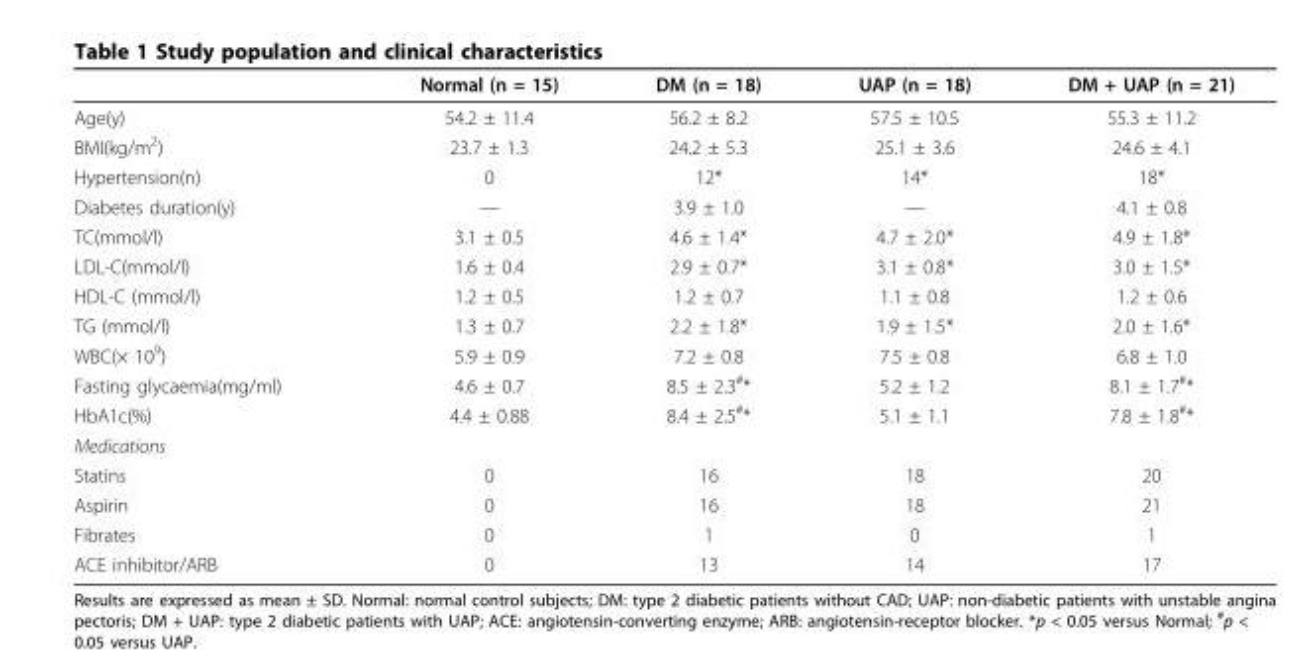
<table><thead><tr><td></td><td>Normal (n = 15)</td><td>DM (n = 18)</td><td>UAP (n = 18)</td><td>DM + UAP (n = 21)</td></tr></thead><tbody><tr><td>Age(y)</td><td>54.2 ± 11.4</td><td>56.2 ± 8.2</td><td>57.5 ± 10.5</td><td>55.3 ± 11.2</td></tr><tr><td>BMI(kg/m<sup>2</sup>)</td><td>23.7 ± 1.3</td><td>24.2 ± 5.3</td><td>25.1 ± 3.6</td><td>24.6 ± 4.1</td></tr><tr><td>Hypertension(n)</td><td>0</td><td>12*</td><td>14*</td><td>18*</td></tr><tr><td>Diabetes duration(y)</td><td>—</td><td>3.9 ± 1.0</td><td>—</td><td>4.1 ± 0.8</td></tr><tr><td>TC(mmol/l)</td><td>3.1 ± 0.5</td><td>4.6 ± 1.4*</td><td>4.7 ± 2.0*</td><td>4.9 ± 1.8*</td></tr><tr><td>LDL-C(mmol/l)</td><td>1.6 ± 0.4</td><td>2.9 ± 0.7*</td><td>3.1 ± 0.8*</td><td>3.0 ± 1.5*</td></tr><tr><td>HDL-C (mmol/l)</td><td>1.2 ± 0.5</td><td>1.2 ± 0.7</td><td>1.1 ± 0.8</td><td>1.2 ± 0.6</td></tr><tr><td>TG (mmol/l)</td><td>1.3 ± 0.7</td><td>2.2 ± 1.8*</td><td>1.9 ± 1.5*</td><td>2.0 ± 1.6*</td></tr><tr><td>WBC(× 10<sup>9</sup>)</td><td>5.9 ± 0.9</td><td>7.2 ± 0.8</td><td>7.5 ± 0.8</td><td>6.8 ± 1.0</td></tr><tr><td>Fasting glycaemia(mg/ml)</td><td>4.6 ± 0.7</td><td>8.5 ± 2.3<sup>#</sup>*</td><td>5.2 ± 1.2</td><td>8.1 ± 1.7<sup>#</sup>*</td></tr><tr><td>HbA1c(%)</td><td>4.4 ± 0.88</td><td>8.4 ± 2.5<sup>#</sup>*</td><td>5.1 ± 1.1</td><td>7.8 ± 1.8<sup>#</sup>*</td></tr><tr><td colspan="5">Medications</td></tr><tr><td>Statins</td><td>0</td><td>16</td><td>18</td><td>20</td></tr><tr><td>Aspirin</td><td>0</td><td>16</td><td>18</td><td>21</td></tr><tr><td>Fibrates</td><td>0</td><td>1</td><td>0</td><td>1</td></tr><tr><td>ACE inhibitor/ARB</td><td>0</td><td>13</td><td>14</td><td>17</td></tr></tbody></table>